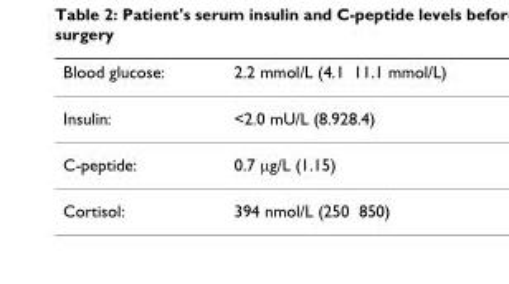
<table><thead><tr><td>Blood glucose:</td><td>2.2 mmol/L (4.1 11.1 mmol/L)</td></tr></thead><tbody><tr><td>Insulin:</td><td>&lt;2.0 mU/L (8.928.4)</td></tr><tr><td>C-peptide:</td><td>0.7 μg/L (1.15)</td></tr><tr><td>Cortisol:</td><td>394 nmol/L (250 850)</td></tr></tbody></table>